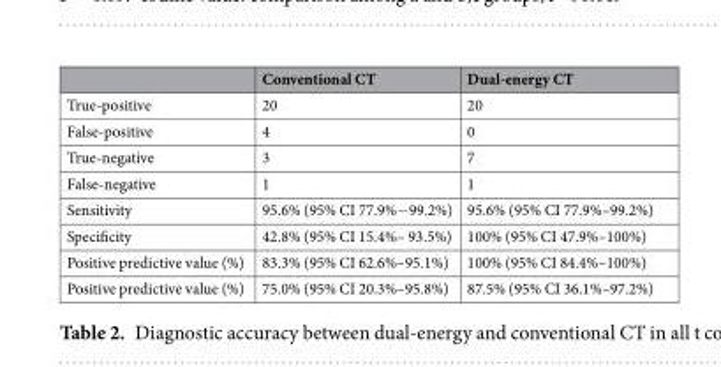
<table><thead><tr><td></td><td>Conventional CT</td><td>Dual-energy CT</td></tr></thead><tbody><tr><td>True-positive</td><td>20</td><td>20</td></tr><tr><td>False-positive</td><td>4</td><td>0</td></tr><tr><td>True-negative</td><td>3</td><td>7</td></tr><tr><td>False-negative</td><td>1</td><td>1</td></tr><tr><td>Sensitivity</td><td>95.6% (95% CI 77.9%−99.2%)</td><td>95.6% (95% CI 77.9%–99.2%)</td></tr><tr><td>Specificity</td><td>42.8% (95% CI 15.4%– 93.5%)</td><td>100% (95% CI 47.9%–100%)</td></tr><tr><td>Positive predictive value (%)</td><td>83.3% (95% CI 62.6%–95.1%)</td><td>100% (95% CI 84.4%–100%)</td></tr><tr><td>Positive predictive value (%)</td><td>75.0% (95% CI 20.3%–95.8%)</td><td>87.5% (95% CI 36.1%–97.2%)</td></tr></tbody></table>